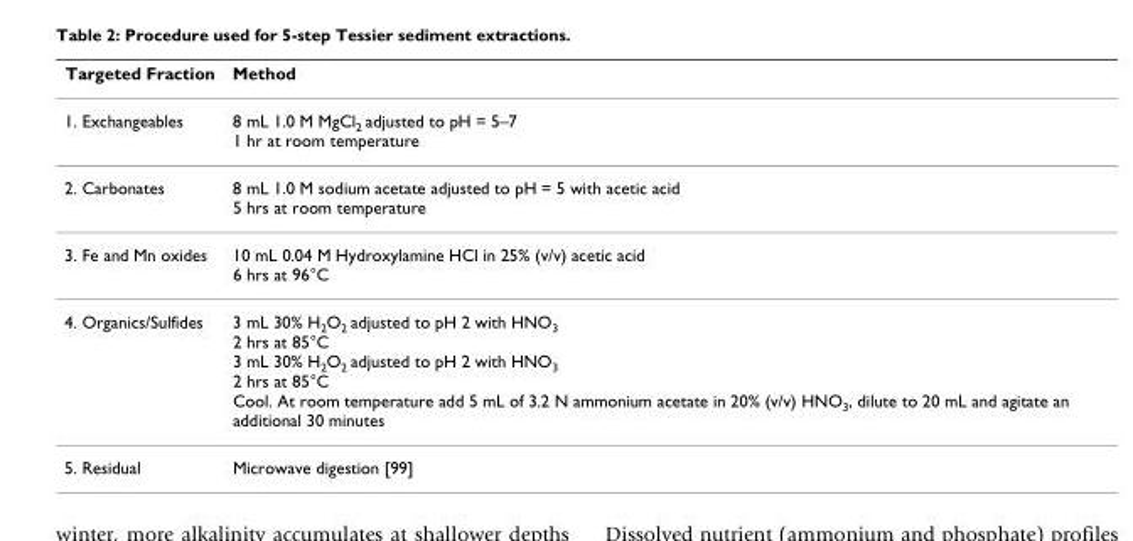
<table><thead><tr><td>Targeted Fraction</td><td>Method</td></tr></thead><tbody><tr><td>1. Exchangeables</td><td>8 mL 1.0 M MgCl<sub>2</sub> adjusted to pH = 5–7 1 hr at room temperature</td></tr><tr><td>2. Carbonates</td><td>8 mL 1.0 M sodium acetate adjusted to pH = 5 with acetic acid 5 hrs at room temperature</td></tr><tr><td>3. Fe and Mn oxides</td><td>10 mL 0.04 M Hydroxylamine HCl in 25% (v/v) acetic acid 6 hrs at 96°C</td></tr><tr><td>4. Organics/Sulfides</td><td>3 mL 30% H<sub>2</sub>O<sub>2</sub> adjusted to pH 2 with HNO<sub>3</sub> 2 hrs at 85°C 3 mL 30% H<sub>2</sub>O<sub>2</sub> adjusted to pH 2 with HNO<sub>3</sub> 2 hrs at 85°C Cool. At room temperature add 5 mL of 3.2 N ammonium acetate in 20% (v/v) HNO<sub>3</sub>, dilute to 20 mL and agitate an additional 30 minutes</td></tr><tr><td>5. Residual</td><td>Microwave digestion [99]</td></tr></tbody></table>